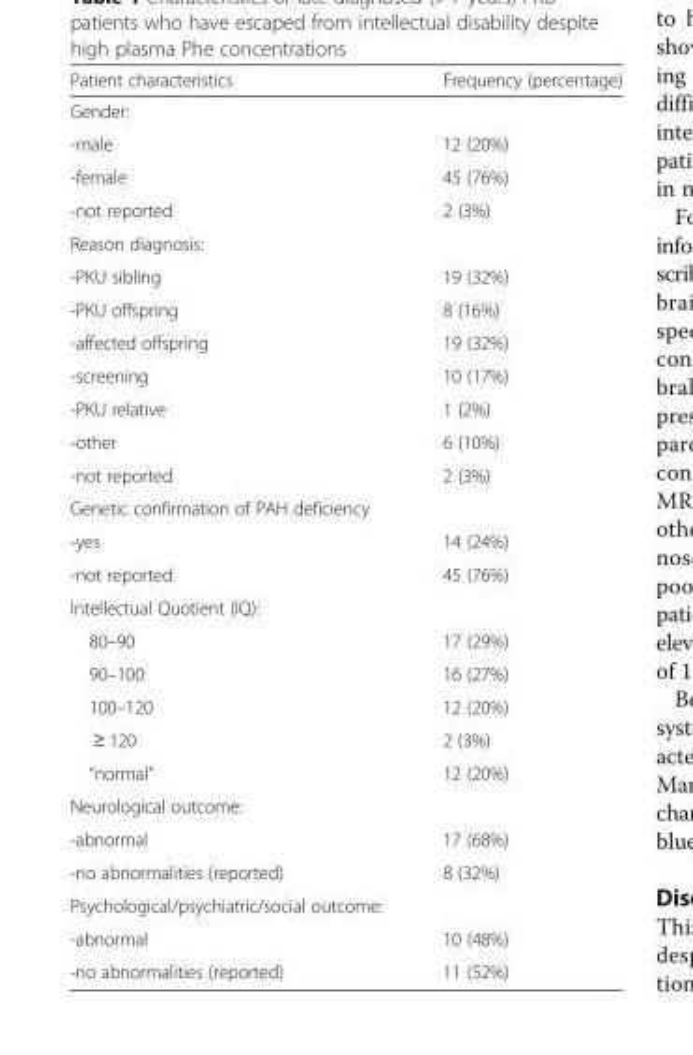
<table><thead><tr><td>Patient characteristics</td><td>Frequency (percentage)</td></tr></thead><tbody><tr><td colspan="2">Gender:</td></tr><tr><td>-male</td><td>12 (20%)</td></tr><tr><td>-female</td><td>45 (76%)</td></tr><tr><td>-not reported</td><td>2 (3%)</td></tr><tr><td colspan="2">Reason diagnosis:</td></tr><tr><td>-PKU sibling</td><td>19 (32%)</td></tr><tr><td>-PKU offspring</td><td>8 (16%)</td></tr><tr><td>-affected offspring</td><td>19 (32%)</td></tr><tr><td>-screening</td><td>10 (17%)</td></tr><tr><td>-PKU relative</td><td>1 (2%)</td></tr><tr><td>-other</td><td>6 (10%)</td></tr><tr><td>-not reported</td><td>2 (3%)</td></tr><tr><td colspan="2">Genetic confirmation of PAH deficiency</td></tr><tr><td>-yes</td><td>14 (24%)</td></tr><tr><td>-not reported</td><td>45 (76%)</td></tr><tr><td colspan="2">Intellectual Quotient (IQ):</td></tr><tr><td>80–90</td><td>17 (29%)</td></tr><tr><td>90–100</td><td>16 (27%)</td></tr><tr><td>100–120</td><td>12 (20%)</td></tr><tr><td>≥ 120</td><td>2 (3%)</td></tr><tr><td>“normal”</td><td>12 (20%)</td></tr><tr><td colspan="2">Neurological outcome:</td></tr><tr><td>-abnormal</td><td>17 (68%)</td></tr><tr><td>-no abnormalities (reported)</td><td>8 (32%)</td></tr><tr><td colspan="2">Psychological/psychiatric/social outcome:</td></tr><tr><td>-abnormal</td><td>10 (48%)</td></tr><tr><td>-no abnormalities (reported)</td><td>11 (52%)</td></tr></tbody></table>